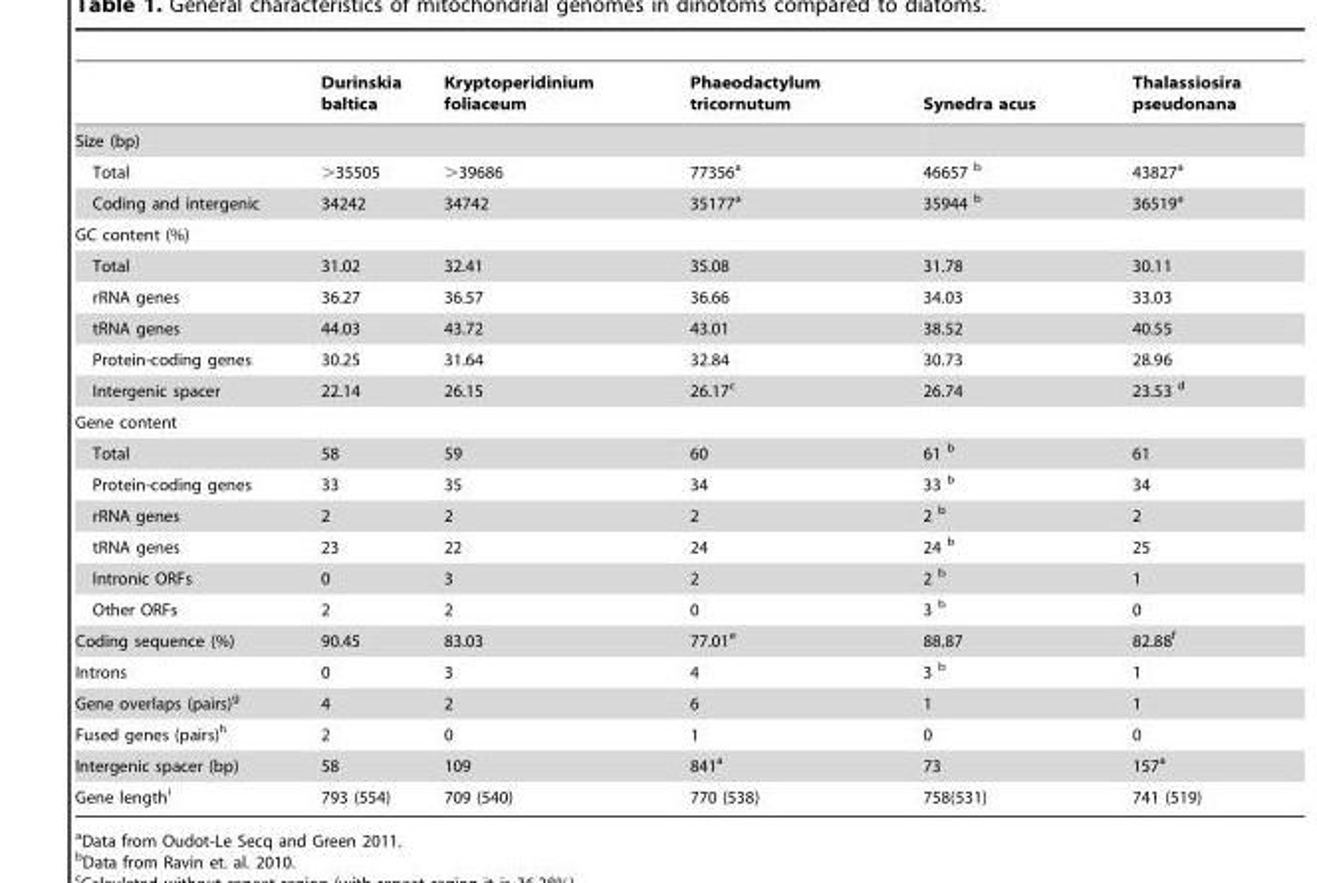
<table><thead><tr><td></td><td>Durinskia baltica</td><td>Kryptoperidinium foliaceum</td><td>Phaeodactylum tricornutum</td><td>Synedra acus</td><td>Thalassiosira pseudonana</td></tr></thead><tbody><tr><td colspan="6">Size (bp)</td></tr><tr><td>Total</td><td>&gt;35505</td><td>&gt;39686</td><td>77356<sup>a</sup></td><td>46657 b</td><td>43827<sup>a</sup></td></tr><tr><td>Coding and intergenic</td><td>34242</td><td>34742</td><td>35177<sup>a</sup></td><td>35944 b</td><td>36519<sup>a</sup></td></tr><tr><td colspan="6">GC content (%)</td></tr><tr><td>Total</td><td>31.02</td><td>32.41</td><td>35.08</td><td>31.78</td><td>30.11</td></tr><tr><td>rRNA genes</td><td>36.27</td><td>36.57</td><td>36.66</td><td>34.03</td><td>33.03</td></tr><tr><td>tRNA genes</td><td>44.03</td><td>43.72</td><td>43.01</td><td>38.52</td><td>40.55</td></tr><tr><td>Protein-coding genes</td><td>30.25</td><td>31.64</td><td>32.84</td><td>30.73</td><td>28.96</td></tr><tr><td>Intergenic spacer</td><td>22.14</td><td>26.15</td><td>26.17<sup>c</sup></td><td>26.74</td><td>23.53 d</td></tr><tr><td colspan="6">Gene content</td></tr><tr><td>Total</td><td>58</td><td>59</td><td>60</td><td>61 b</td><td>61</td></tr><tr><td>Protein-coding genes</td><td>33</td><td>35</td><td>34</td><td>33 b</td><td>34</td></tr><tr><td>rRNA genes</td><td>2</td><td>2</td><td>2</td><td>2 b</td><td>2</td></tr><tr><td>tRNA genes</td><td>23</td><td>22</td><td>24</td><td>24 b</td><td>25</td></tr><tr><td>Intronic ORFs</td><td>0</td><td>3</td><td>2</td><td>2 b</td><td>1</td></tr><tr><td>Other ORFs</td><td>2</td><td>2</td><td>0</td><td>3 b</td><td>0</td></tr><tr><td>Coding sequence (%)</td><td>90.45</td><td>83.03</td><td>77.01<sup>e</sup></td><td>88.87</td><td>82.88<sup>f</sup></td></tr><tr><td>Introns</td><td>0</td><td>3</td><td>4</td><td>3 b</td><td>1</td></tr><tr><td>Gene overlaps (pairs)<sup>g</sup></td><td>4</td><td>2</td><td>6</td><td>1</td><td>1</td></tr><tr><td>Fused genes (pairs)<sup>h</sup></td><td>2</td><td>0</td><td>1</td><td>0</td><td>0</td></tr><tr><td>Intergenic spacer (bp)</td><td>58</td><td>109</td><td>841<sup>a</sup></td><td>73</td><td>157<sup>a</sup></td></tr><tr><td>Gene length<sup>i</sup></td><td>793 (554)</td><td>709 (540)</td><td>770 (538)</td><td>758(531)</td><td>741 (519)</td></tr></tbody></table>